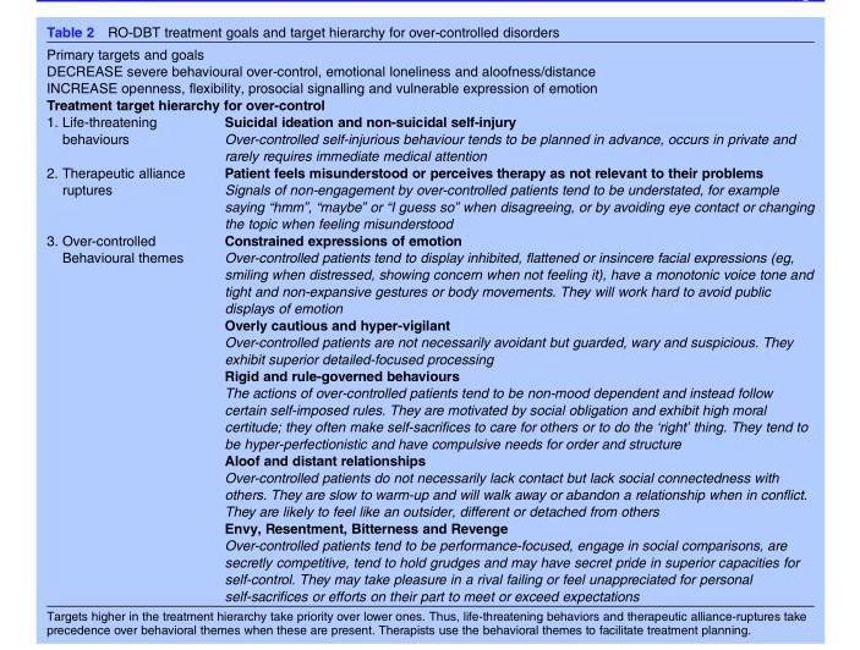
<table><tbody><tr><td colspan="2">Primary targets and goals DECREASE severe behavioural over-control, emotional loneliness and aloofness/distance INCREASE openness, flexibility, prosocial signalling and vulnerable expression of emotion</td></tr><tr><td colspan="2">Treatment target hierarchy for over-control</td></tr><tr><td>1. Life-threatening behaviours</td><td>Suicidal ideation and non-suicidal self-injury Over-controlled self-injurious behaviour tends to be planned in advance, occurs in private and rarely requires immediate medical attention</td></tr><tr><td>2. Therapeutic alliance ruptures</td><td>Patient feels misunderstood or perceives therapy as not relevant to their problems Signals of non-engagement by over-controlled patients tend to be understated, for example saying “hmm”, “maybe” or “I guess so” when disagreeing, or by avoiding eye contact or changing the topic when feeling misunderstood</td></tr><tr><td>3. Over-controlled Behavioural themes</td><td>Constrained expressions of emotion Over-controlled patients tend to display inhibited, flattened or insincere facial expressions (eg, smiling when distressed, showing concern when not feeling it), have a monotonic voice tone and tight and non-expansive gestures or body movements. They will work hard to avoid public displays of emotion Overly cautious and hyper-vigilant Over-controlled patients are not necessarily avoidant but guarded, wary and suspicious. They exhibit superior detailed-focused processing Rigid and rule-governed behaviours The actions of over-controlled patients tend to be non-mood dependent and instead follow certain self-imposed rules. They are motivated by social obligation and exhibit high moral certitude; they often make self-sacrifices to care for others or to do the ‘right’ thing. They tend to be hyper-perfectionistic and have compulsive needs for order and structure Aloof and distant relationships Over-controlled patients do not necessarily lack contact but lack social connectedness with others. They are slow to warm-up and will walk away or abandon a relationship when in conflict. They are likely to feel like an outsider, different or detached from others Envy, Resentment, Bitterness and Revenge Over-controlled patients tend to be performance-focused, engage in social comparisons, are secretly competitive, tend to hold grudges and may have secret pride in superior capacities for self-control. They may take pleasure in a rival failing or feel unappreciated for personal self-sacrifices or efforts on their part to meet or exceed expectations</td></tr></tbody></table>